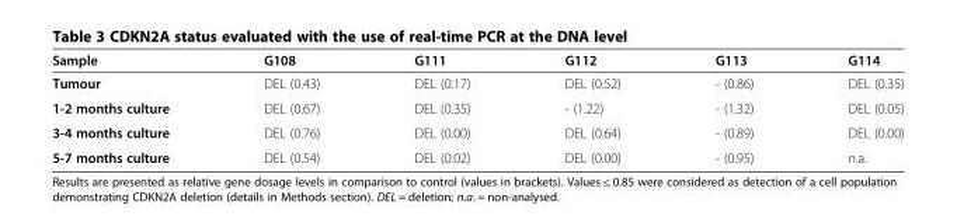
<table><thead><tr><td>Sample</td><td>G108</td><td>G111</td><td>G112</td><td>G113</td><td>G114</td></tr></thead><tbody><tr><td>Tumour</td><td>DEL (0.43)</td><td>DEL (0.17)</td><td>DEL (0.52)</td><td>- (0.86)</td><td>DEL (0.35)</td></tr><tr><td>1-2 months culture</td><td>DEL (0.67)</td><td>DEL (0.35)</td><td>- (1.22)</td><td>- (1.32)</td><td>DEL (0.05)</td></tr><tr><td>3-4 months culture</td><td>DEL (0.76)</td><td>DEL (0.00)</td><td>DEL (0.64)</td><td>- (0.89)</td><td>DEL (0.00)</td></tr><tr><td>5-7 months culture</td><td>DEL (0.54)</td><td>DEL (0.02)</td><td>DEL (0.00)</td><td>- (0.95)</td><td>n.a.</td></tr></tbody></table>